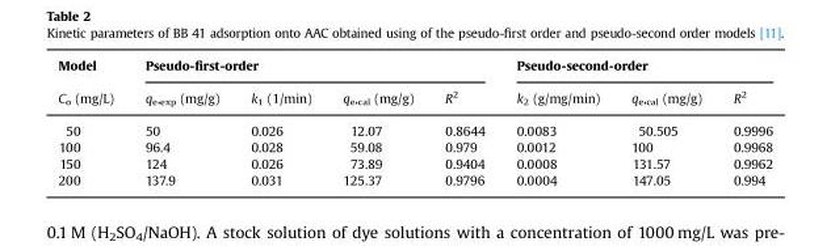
<table><thead><tr><td rowspan="2">Model C<sub>o</sub> (mg/L)</td><td colspan="4">Pseudo-first-order</td><td colspan="3">Pseudo-second-order</td></tr><tr><td>q<sub>e</sub>,<sub>exp</sub> (mg/g)</td><td>k<sub>1</sub> (1/min)</td><td>q<sub>e</sub>,<sub>cal</sub> (mg/g)</td><td>R<sup>2</sup></td><td>k<sub>2</sub> (g/mg/min)</td><td>q<sub>e</sub>,<sub>cal</sub> (mg/g)</td><td>R<sup>2</sup></td></tr></thead><tbody><tr><td>50</td><td>50</td><td>0.026</td><td>12.07</td><td>0.8644</td><td>0.0083</td><td>50.505</td><td>0.9996</td></tr><tr><td>100</td><td>96.4</td><td>0.028</td><td>59.08</td><td>0.979</td><td>0.0012</td><td>100</td><td>0.9968</td></tr><tr><td>150</td><td>124</td><td>0.026</td><td>73.89</td><td>0.9404</td><td>0.0008</td><td>131.57</td><td>0.9962</td></tr><tr><td>200</td><td>137.9</td><td>0.031</td><td>125.37</td><td>0.9796</td><td>0.0004</td><td>147.05</td><td>0.994</td></tr></tbody></table>